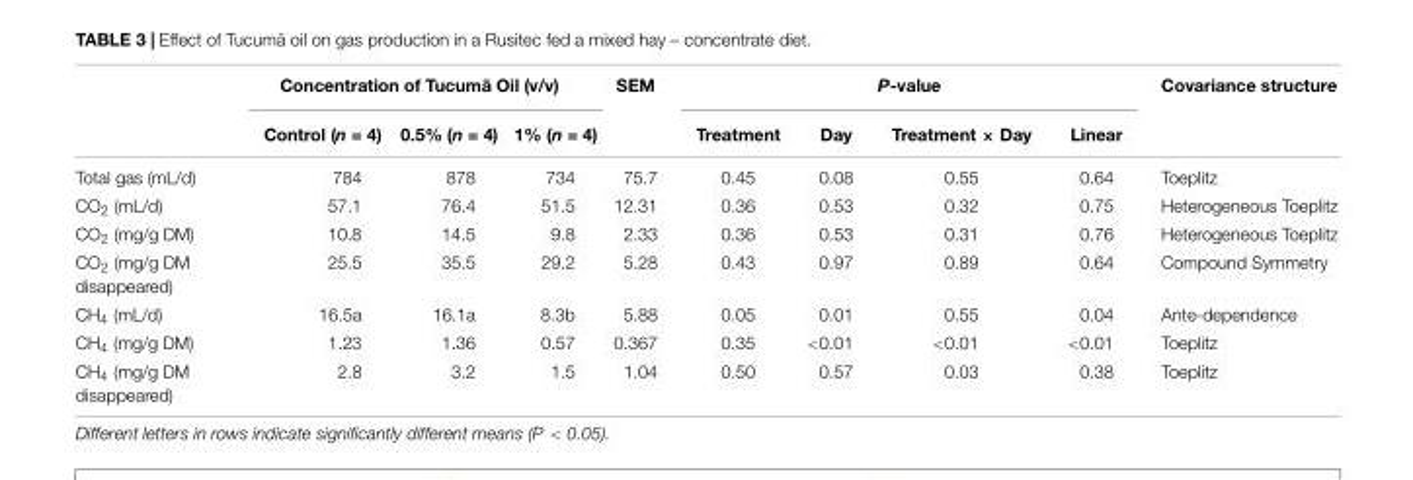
<table><thead><tr><td rowspan="2"></td><td colspan="3">Concentration of Tucumã Oil (v/v)</td><td rowspan="2">SEM</td><td colspan="4">P-value</td><td rowspan="2">Covariance structure</td></tr><tr><td>Control (n = 4)</td><td>0.5% (n = 4)</td><td>1% (n = 4)</td><td>Treatment</td><td>Day</td><td>Treatment × Day</td><td>Linear</td></tr></thead><tbody><tr><td>Total gas (mL/d)</td><td>784</td><td>878</td><td>734</td><td>75.7</td><td>0.45</td><td>0.08</td><td>0.55</td><td>0.64</td><td>Toeplitz</td></tr><tr><td>CO<sub>2</sub> (mL/d)</td><td>57.1</td><td>76.4</td><td>51.5</td><td>12.31</td><td>0.36</td><td>0.53</td><td>0.32</td><td>0.75</td><td>Heterogeneous Toeplitz</td></tr><tr><td>CO<sub>2</sub> (mg/g DM)</td><td>10.8</td><td>14.5</td><td>9.8</td><td>2.33</td><td>0.36</td><td>0.53</td><td>0.31</td><td>0.76</td><td>Heterogeneous Toeplitz</td></tr><tr><td>CO<sub>2</sub> (mg/g DM disappeared)</td><td>25.5</td><td>35.5</td><td>29.2</td><td>5.28</td><td>0.43</td><td>0.97</td><td>0.89</td><td>0.64</td><td>Compound Symmetry</td></tr><tr><td>CH<sub>4</sub> (mL/d)</td><td>16.5a</td><td>16.1a</td><td>8.3b</td><td>5.88</td><td>0.05</td><td>0.01</td><td>0.55</td><td>0.04</td><td>Ante-dependence</td></tr><tr><td>CH<sub>4</sub> (mg/g DM)</td><td>1.23</td><td>1.36</td><td>0.57</td><td>0.367</td><td>0.35</td><td>&lt;0.01</td><td>&lt;0.01</td><td>&lt;0.01</td><td>Toeplitz</td></tr><tr><td>CH<sub>4</sub> (mg/g DM disappeared)</td><td>2.8</td><td>3.2</td><td>1.5</td><td>1.04</td><td>0.50</td><td>0.57</td><td>0.03</td><td>0.38</td><td>Toeplitz</td></tr></tbody></table>